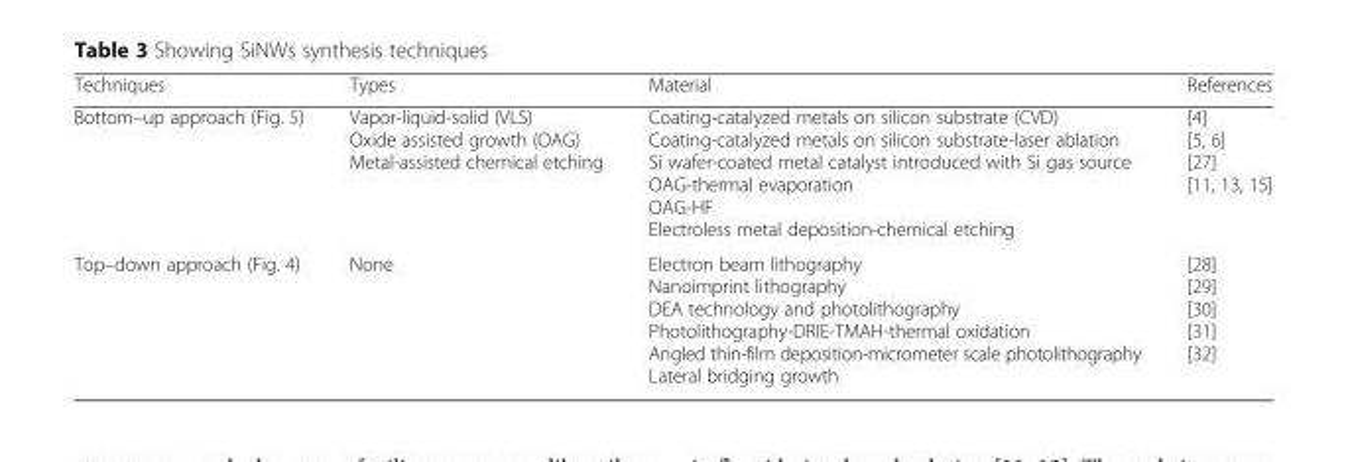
<table><thead><tr><td>Techniques</td><td>Types</td><td>Material</td><td>References</td></tr></thead><tbody><tr><td>Bottom–up approach (Fig. 5)</td><td>Vapor-liquid-solid (VLS) Oxide assisted growth (OAG) Metal-assisted chemical etching</td><td>Coating-catalyzed metals on silicon substrate (CVD) Coating-catalyzed metals on silicon substrate-laser ablation Si wafer-coated metal catalyst introduced with Si gas source OAG-thermal evaporation OAG-HF Electroless metal deposition-chemical etching</td><td>[4] [5, 6] [27] [11, 13, 15]</td></tr><tr><td>Top–down approach (Fig. 4)</td><td>None</td><td>Electron beam lithography Nanoimprint lithography DEA technology and photolithography Photolithography-DRIE-TMAH-thermal oxidation Angled thin-film deposition-micrometer scale photolithography Lateral bridging growth</td><td>[28] [29] [30] [31] [32]</td></tr></tbody></table>